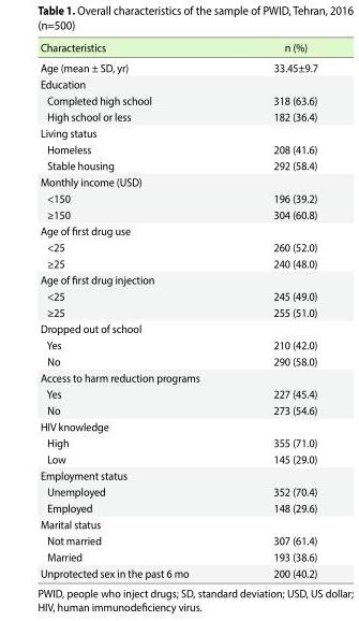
<table><thead><tr><td>Characteristics</td><td>n (%)</td></tr></thead><tbody><tr><td>Age (mean ± SD, yr)</td><td>33.45±9.7</td></tr><tr><td colspan="2">Education</td></tr><tr><td>Completed high school</td><td>318 (63.6)</td></tr><tr><td>High school or less</td><td>182 (36.4)</td></tr><tr><td colspan="2">Living status</td></tr><tr><td>Homeless</td><td>208 (41.6)</td></tr><tr><td>Stable housing</td><td>292 (58.4)</td></tr><tr><td colspan="2">Monthly income (USD)</td></tr><tr><td>&lt;150</td><td>196 (39.2)</td></tr><tr><td>≥150</td><td>304 (60.8)</td></tr><tr><td colspan="2">Age of first drug use</td></tr><tr><td>&lt;25</td><td>260 (52.0)</td></tr><tr><td>≥25</td><td>240 (48.0)</td></tr><tr><td colspan="2">Age of first drug injection</td></tr><tr><td>&lt;25</td><td>245 (49.0)</td></tr><tr><td>≥25</td><td>255 (51.0)</td></tr><tr><td colspan="2">Dropped out of school</td></tr><tr><td>Yes</td><td>210 (42.0)</td></tr><tr><td>No</td><td>290 (58.0)</td></tr><tr><td colspan="2">Access to harm reduction programs</td></tr><tr><td>Yes</td><td>227 (45.4)</td></tr><tr><td>No</td><td>273 (54.6)</td></tr><tr><td colspan="2">HIV knowledge</td></tr><tr><td>High</td><td>355 (71.0)</td></tr><tr><td>Low</td><td>145 (29.0)</td></tr><tr><td colspan="2">Employment status</td></tr><tr><td>Unemployed</td><td>352 (70.4)</td></tr><tr><td>Employed</td><td>148 (29.6)</td></tr><tr><td colspan="2">Marital status</td></tr><tr><td>Not married</td><td>307 (61.4)</td></tr><tr><td>Married</td><td>193 (38.6)</td></tr><tr><td>Unprotected sex in the past 6 mo</td><td>200 (40.2)</td></tr></tbody></table>